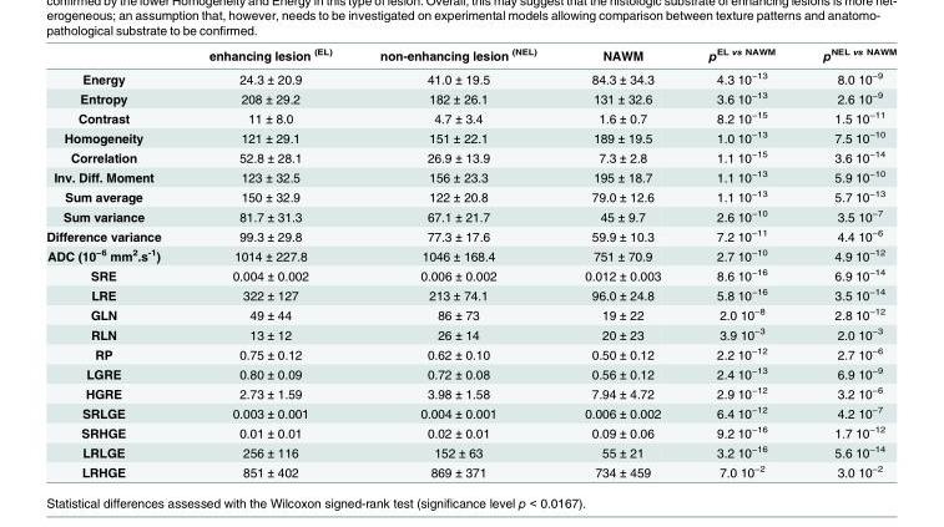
<table><thead><tr><td></td><td>enhancing lesion <sup>(EL)</sup></td><td>non-enhancing lesion <sup>(NEL)</sup></td><td>NAWM</td><td>p<sup>EL vs NAWM</sup></td><td>p<sup>NEL vs NAWM</sup></td></tr></thead><tbody><tr><td>Energy</td><td>24.3 ± 20.9</td><td>41.0 ± 19.5</td><td>84.3 ± 34.3</td><td>4.3 10<sup>−13</sup></td><td>8.0 10<sup>−9</sup></td></tr><tr><td>Entropy</td><td>208 ± 29.2</td><td>182 ± 26.1</td><td>131 ± 32.6</td><td>3.6 10<sup>−13</sup></td><td>2.6 10<sup>−9</sup></td></tr><tr><td>Contrast</td><td>11 ± 8.0</td><td>4.7 ± 3.4</td><td>1.6 ± 0.7</td><td>8.2 10<sup>−15</sup></td><td>1.5 10<sup>−11</sup></td></tr><tr><td>Homogeneity</td><td>121 ± 29.1</td><td>151 ± 22.1</td><td>189 ± 19.5</td><td>1.0 10<sup>−13</sup></td><td>7.5 10<sup>−10</sup></td></tr><tr><td>Correlation</td><td>52.8 ± 28.1</td><td>26.9 ± 13.9</td><td>7.3 ± 2.8</td><td>1.1 10<sup>−15</sup></td><td>3.6 10<sup>−14</sup></td></tr><tr><td>Inv. Diff. Moment</td><td>123 ± 32.5</td><td>156 ± 23.3</td><td>195 ± 18.7</td><td>1.1 10<sup>−13</sup></td><td>5.9 10<sup>−10</sup></td></tr><tr><td>Sum average</td><td>150 ± 32.9</td><td>122 ± 20.8</td><td>79.0 ± 12.6</td><td>1.1 10<sup>−13</sup></td><td>5.7 10<sup>−13</sup></td></tr><tr><td>Sum variance</td><td>81.7 ± 31.3</td><td>67.1 ± 21.7</td><td>45 ± 9.7</td><td>2.6 10<sup>−10</sup></td><td>3.5 10<sup>−7</sup></td></tr><tr><td>Difference variance</td><td>99.3 ± 29.8</td><td>77.3 ± 17.6</td><td>59.9 ± 10.3</td><td>7.2 10<sup>−11</sup></td><td>4.4 10<sup>−6</sup></td></tr><tr><td>ADC (10<sup>−6</sup> mm<sup>2</sup>.s<sup>-1</sup>)</td><td>1014 ± 227.8</td><td>1046 ± 168.4</td><td>751 ± 70.9</td><td>2.7 10<sup>−10</sup></td><td>4.9 10<sup>−12</sup></td></tr><tr><td>SRE</td><td>0.004 ± 0.002</td><td>0.006 ± 0.002</td><td>0.012 ± 0.003</td><td>8.6 10<sup>−16</sup></td><td>6.9 10<sup>−14</sup></td></tr><tr><td>LRE</td><td>322 ± 127</td><td>213 ± 74.1</td><td>96.0 ± 24.8</td><td>5.8 10<sup>−16</sup></td><td>3.5 10<sup>−14</sup></td></tr><tr><td>GLN</td><td>49 ± 44</td><td>86 ± 73</td><td>19 ± 22</td><td>2.0 10<sup>−8</sup></td><td>2.8 10<sup>−12</sup></td></tr><tr><td>RLN</td><td>13 ± 12</td><td>26 ± 14</td><td>20 ± 23</td><td>3.9 10<sup>−3</sup></td><td>2.0 10<sup>−3</sup></td></tr><tr><td>RP</td><td>0.75 ± 0.12</td><td>0.62 ± 0.10</td><td>0.50 ± 0.12</td><td>2.2 10<sup>−12</sup></td><td>2.7 10<sup>−6</sup></td></tr><tr><td>LGRE</td><td>0.80 ± 0.09</td><td>0.72 ± 0.08</td><td>0.56 ± 0.12</td><td>2.4 10<sup>−13</sup></td><td>6.9 10<sup>−9</sup></td></tr><tr><td>HGRE</td><td>2.73 ± 1.59</td><td>3.98 ± 1.58</td><td>7.94 ± 4.72</td><td>2.9 10<sup>−12</sup></td><td>3.2 10<sup>−6</sup></td></tr><tr><td>SRLGE</td><td>0.003 ± 0.001</td><td>0.004 ± 0.001</td><td>0.006 ± 0.002</td><td>6.4 10<sup>−12</sup></td><td>4.2 10<sup>−7</sup></td></tr><tr><td>SRHGE</td><td>0.01 ± 0.01</td><td>0.02 ± 0.01</td><td>0.09 ± 0.06</td><td>9.2 10<sup>−16</sup></td><td>1.7 10<sup>−12</sup></td></tr><tr><td>LRLGE</td><td>256 ± 116</td><td>152 ± 63</td><td>55 ± 21</td><td>3.2 10<sup>−16</sup></td><td>5.6 10<sup>−14</sup></td></tr><tr><td>LRHGE</td><td>851 ± 402</td><td>869 ± 371</td><td>734 ± 459</td><td>7.0 10<sup>−2</sup></td><td>3.0 10<sup>−2</sup></td></tr></tbody></table>